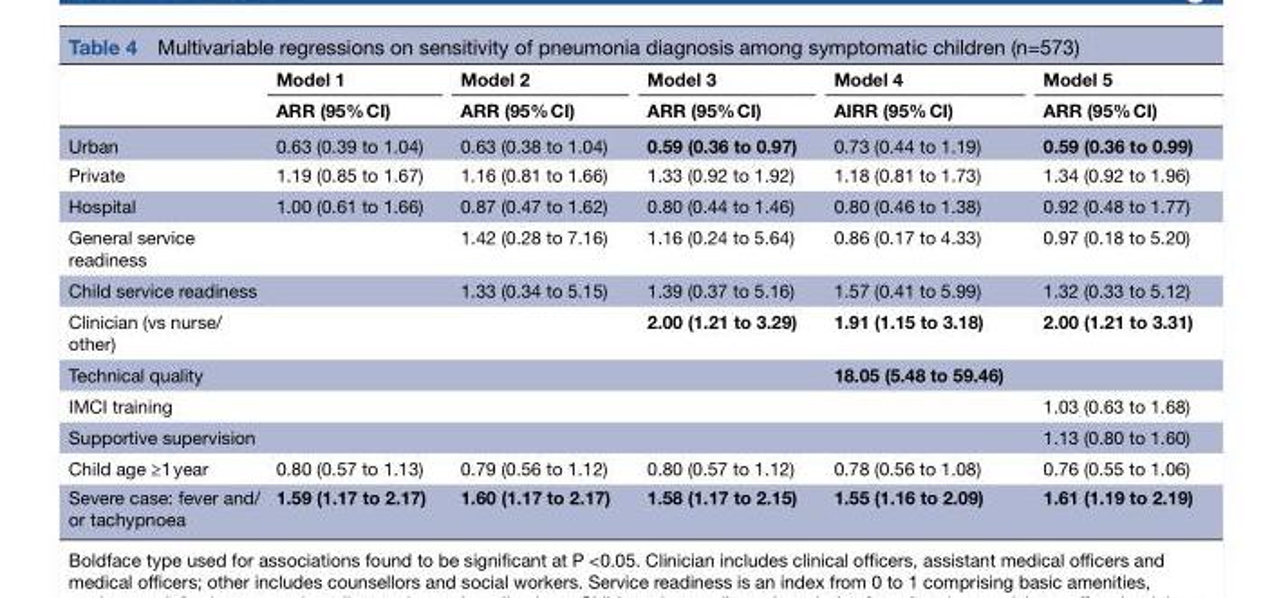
<table><thead><tr><td rowspan="2"></td><td rowspan="2">Model 1 ARR (95% CI)</td><td rowspan="2">Model 2 ARR (95% CI)</td><td rowspan="2">Model 3 ARR (95% CI)</td><td rowspan="2">Model 4 AIRR (95% CI)</td><td rowspan="2">Model 5 ARR (95% CI)</td></tr><tr></tr></thead><tbody><tr><td>Urban</td><td>0.63 (0.39 to 1.04)</td><td>0.63 (0.38 to 1.04)</td><td>0.59 (0.36 to 0.97)</td><td>0.73 (0.44 to 1.19)</td><td>0.59 (0.36 to 0.99)</td></tr><tr><td>Private</td><td>1.19 (0.85 to 1.67)</td><td>1.16 (0.81 to 1.66)</td><td>1.33 (0.92 to 1.92)</td><td>1.18 (0.81 to 1.73)</td><td>1.34 (0.92 to 1.96)</td></tr><tr><td>Hospital</td><td>1.00 (0.61 to 1.66)</td><td>0.87 (0.47 to 1.62)</td><td>0.80 (0.44 to 1.46)</td><td>0.80 (0.46 to 1.38)</td><td>0.92 (0.48 to 1.77)</td></tr><tr><td>General service readiness</td><td></td><td>1.42 (0.28 to 7.16)</td><td>1.16 (0.24 to 5.64)</td><td>0.86 (0.17 to 4.33)</td><td>0.97 (0.18 to 5.20)</td></tr><tr><td>Child service readiness</td><td></td><td>1.33 (0.34 to 5.15)</td><td>1.39 (0.37 to 5.16)</td><td>1.57 (0.41 to 5.99)</td><td>1.32 (0.33 to 5.12)</td></tr><tr><td>Clinician (vs nurse/ other)</td><td></td><td></td><td>2.00 (1.21 to 3.29)</td><td>1.91 (1.15 to 3.18)</td><td>2.00 (1.21 to 3.31)</td></tr><tr><td>Technical quality</td><td></td><td></td><td></td><td>18.05 (5.48 to 59.46)</td><td></td></tr><tr><td>IMCI training</td><td></td><td></td><td></td><td></td><td>1.03 (0.63 to 1.68)</td></tr><tr><td>Supportive supervision</td><td></td><td></td><td></td><td></td><td>1.13 (0.80 to 1.60)</td></tr><tr><td>Child age ≥1 year</td><td>0.80 (0.57 to 1.13)</td><td>0.79 (0.56 to 1.12)</td><td>0.80 (0.57 to 1.12)</td><td>0.78 (0.56 to 1.08)</td><td>0.76 (0.55 to 1.06)</td></tr><tr><td>Severe case: fever and/ or tachypnoea</td><td>1.59 (1.17 to 2.17)</td><td>1.60 (1.17 to 2.17)</td><td>1.58 (1.17 to 2.15)</td><td>1.55 (1.16 to 2.09)</td><td>1.61 (1.19 to 2.19)</td></tr></tbody></table>